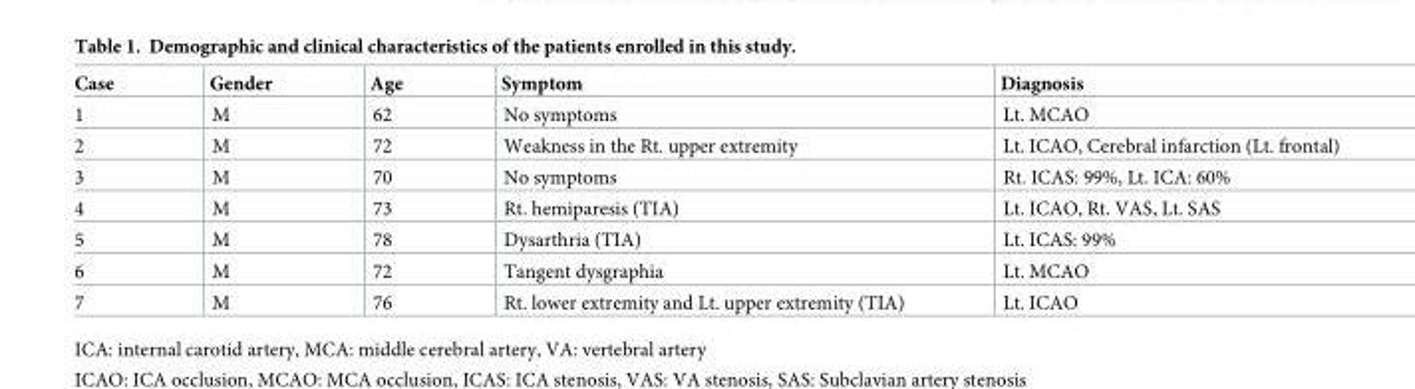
<table><thead><tr><td>Case</td><td>Gender</td><td>Age</td><td>Symptom</td><td>Diagnosis</td></tr></thead><tbody><tr><td>1</td><td>M</td><td>62</td><td>No symptoms</td><td>Lt. MCAO</td></tr><tr><td>2</td><td>M</td><td>72</td><td>Weakness in the Rt. upper extremity</td><td>Lt. ICAO, Cerebral infarction (Lt. frontal)</td></tr><tr><td>3</td><td>M</td><td>70</td><td>No symptoms</td><td>Rt. ICAS: 99%, Lt. ICA: 60%</td></tr><tr><td>4</td><td>M</td><td>73</td><td>Rt. hemiparesis (TIA)</td><td>Lt. ICAO, Rt. VAS, Lt. SAS</td></tr><tr><td>5</td><td>M</td><td>78</td><td>Dysarthria (TIA)</td><td>Lt. ICAS: 99%</td></tr><tr><td>6</td><td>M</td><td>72</td><td>Tangent dysgraphia</td><td>Lt. MCAO</td></tr><tr><td>7</td><td>M</td><td>76</td><td>Rt. lower extremity and Lt. upper extremity (TIA)</td><td>Lt. ICAO</td></tr></tbody></table>